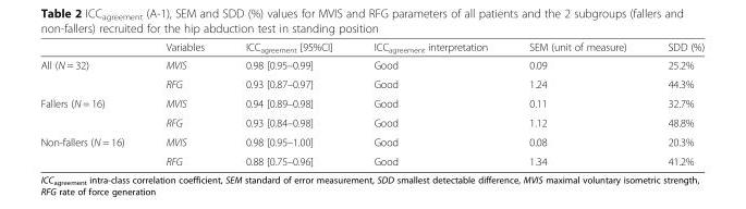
<table><thead><tr><td></td><td>Variables</td><td>ICC<sub>agreement</sub> [95%CI]</td><td>ICC<sub>agreement</sub> interpretation</td><td>SEM (unit of measure)</td><td>SDD (%)</td></tr></thead><tbody><tr><td rowspan="2">All (N = 32)</td><td>MVIS</td><td>0.98 [0.95–0.99]</td><td>Good</td><td>0.09</td><td>25.2%</td></tr><tr><td>RFG</td><td>0.93 [0.87–0.97]</td><td>Good</td><td>1.24</td><td>44.3%</td></tr><tr><td rowspan="2">Fallers (N = 16)</td><td>MVIS</td><td>0.94 [0.89–0.98]</td><td>Good</td><td>0.11</td><td>32.7%</td></tr><tr><td>RFG</td><td>0.93 [0.84–0.98]</td><td>Good</td><td>1.12</td><td>48.8%</td></tr><tr><td rowspan="2">Non-fallers (N = 16)</td><td>MVIS</td><td>0.98 [0.95–1.00]</td><td>Good</td><td>0.08</td><td>20.3%</td></tr><tr><td>RFG</td><td>0.88 [0.75–0.96]</td><td>Good</td><td>1.34</td><td>41.2%</td></tr></tbody></table>